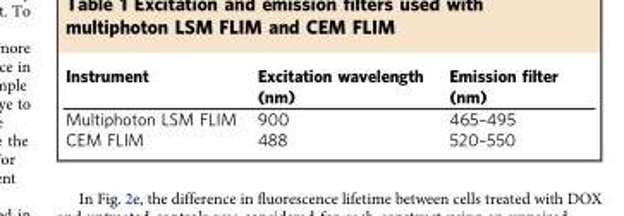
<table><thead><tr><td>Instrument</td><td>Excitation wavelength (nm)</td><td>Emission filter (nm)</td></tr></thead><tbody><tr><td>Multiphoton LSM FLIM</td><td>900</td><td>465–495</td></tr><tr><td>CEM FLIM</td><td>488</td><td>520–550</td></tr></tbody></table>